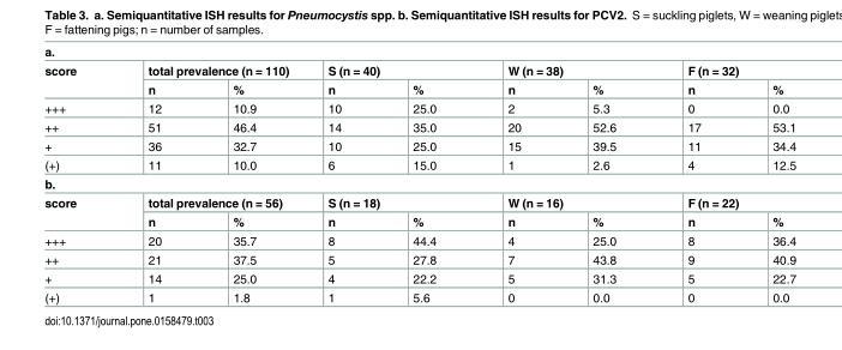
<table><tbody><tr><td colspan="9">a.</td></tr><tr><td rowspan="2">score</td><td colspan="2">total prevalence (n = 110)</td><td colspan="2">S (n = 40)</td><td colspan="2">W (n = 38)</td><td colspan="2">F (n = 32)</td></tr><tr><td>n</td><td>%</td><td>n</td><td>%</td><td>n</td><td>%</td><td>n</td><td>%</td></tr><tr><td>+++</td><td>12</td><td>10.9</td><td>10</td><td>25.0</td><td>2</td><td>5.3</td><td>0</td><td>0.0</td></tr><tr><td>++</td><td>51</td><td>46.4</td><td>14</td><td>35.0</td><td>20</td><td>52.6</td><td>17</td><td>53.1</td></tr><tr><td>+</td><td>36</td><td>32.7</td><td>10</td><td>25.0</td><td>15</td><td>39.5</td><td>11</td><td>34.4</td></tr><tr><td>(+)</td><td>11</td><td>10.0</td><td>6</td><td>15.0</td><td>1</td><td>2.6</td><td>4</td><td>12.5</td></tr><tr><td colspan="9">b.</td></tr><tr><td rowspan="2">score</td><td colspan="2">total prevalence (n = 56)</td><td colspan="2">S (n = 18)</td><td colspan="2">W (n = 16)</td><td colspan="2">F (n = 22)</td></tr><tr><td>n</td><td>%</td><td>n</td><td>%</td><td>n</td><td>%</td><td>n</td><td>%</td></tr><tr><td>+++</td><td>20</td><td>35.7</td><td>8</td><td>44.4</td><td>4</td><td>25.0</td><td>8</td><td>36.4</td></tr><tr><td>++</td><td>21</td><td>37.5</td><td>5</td><td>27.8</td><td>7</td><td>43.8</td><td>9</td><td>40.9</td></tr><tr><td>+</td><td>14</td><td>25.0</td><td>4</td><td>22.2</td><td>5</td><td>31.3</td><td>5</td><td>22.7</td></tr><tr><td>(+)</td><td>1</td><td>1.8</td><td>1</td><td>5.6</td><td>0</td><td>0.0</td><td>0</td><td>0.0</td></tr></tbody></table>